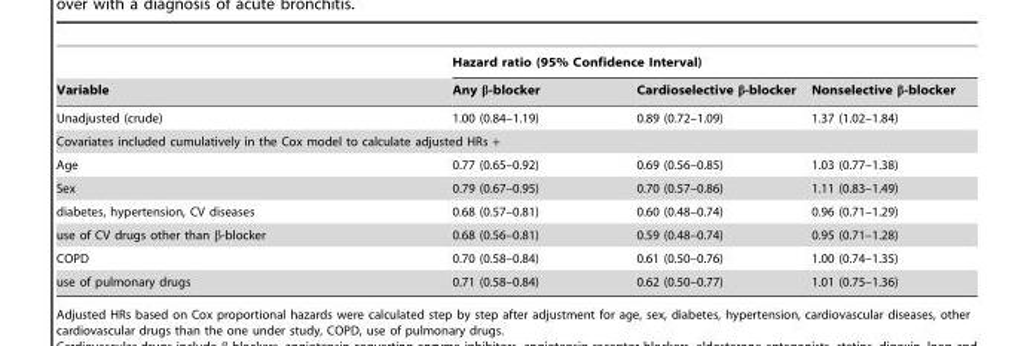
<table><thead><tr><td rowspan="2">Variable</td><td colspan="3">Hazard ratio (95% Confidence Interval)</td></tr><tr><td>Any β-blocker</td><td>Cardioselective β-blocker</td><td>Nonselective β-blocker</td></tr></thead><tbody><tr><td>Unadjusted (crude)</td><td>1.00 (0.84–1.19)</td><td>0.89 (0.72–1.09)</td><td>1.37 (1.02–1.84)</td></tr><tr><td colspan="4">Covariates included cumulatively in the Cox model to calculate adjusted HRs +</td></tr><tr><td>Age</td><td>0.77 (0.65–0.92)</td><td>0.69 (0.56–0.85)</td><td>1.03 (0.77–1.38)</td></tr><tr><td>Sex</td><td>0.79 (0.67–0.95)</td><td>0.70 (0.57–0.86)</td><td>1.11 (0.83–1.49)</td></tr><tr><td>diabetes, hypertension, CV diseases</td><td>0.68 (0.57–0.81)</td><td>0.60 (0.48–0.74)</td><td>0.96 (0.71–1.29)</td></tr><tr><td>use of CV drugs other than β-blocker</td><td>0.68 (0.56–0.81)</td><td>0.59 (0.48–0.74)</td><td>0.95 (0.71–1.28)</td></tr><tr><td>COPD</td><td>0.70 (0.58–0.84)</td><td>0.61 (0.50–0.76)</td><td>1.00 (0.74–1.35)</td></tr><tr><td>use of pulmonary drugs</td><td>0.71 (0.58–0.84)</td><td>0.62 (0.50–0.77)</td><td>1.01 (0.75–1.36)</td></tr></tbody></table>